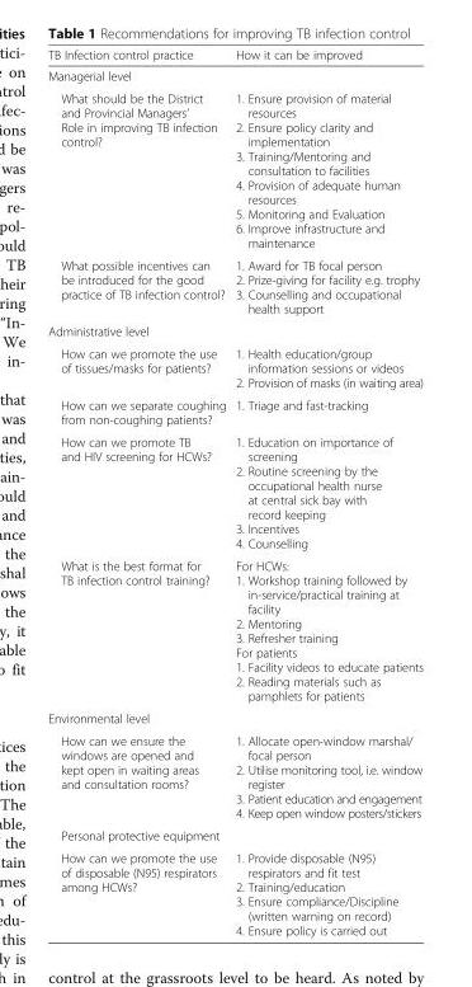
<table><thead><tr><td>TB Infection control practice</td><td>How it can be improved</td></tr></thead><tbody><tr><td colspan="2">Managerial level</td></tr><tr><td>What should be the District and Provincial Managers’ Role in improving TB infection control?</td><td>1. Ensure provision of material resources 2. Ensure policy clarity and implementation 3. Training/Mentoring and consultation to facilities 4. Provision of adequate human resources 5. Monitoring and Evaluation 6. Improve infrastructure and maintenance</td></tr><tr><td>What possible incentives can be introduced for the good practice of TB infection control?</td><td>1. Award for TB focal person 2. Prize-giving for facility e.g. trophy 3. Counselling and occupational health support</td></tr><tr><td colspan="2">Administrative level</td></tr><tr><td>How can we promote the use of tissues/masks for patients?</td><td>1. Health education/group information sessions or videos 2. Provision of masks (in waiting area)</td></tr><tr><td>How can we separate coughing from non-coughing patients?</td><td>1. Triage and fast-tracking</td></tr><tr><td>How can we promote TB and HIV screening for HCWs?</td><td>1. Education on importance of screening 2. Routine screening by the occupational health nurse at central sick bay with record keeping 3. Incentives 4. Counselling</td></tr><tr><td>What is the best format for TB infection control training?</td><td>For HCWs: 1. Workshop training followed by in-service/practical training at facility 2. Mentoring 3. Refresher training For patients 1. Facility videos to educate patients 2. Reading materials such as pamphlets for patients</td></tr><tr><td colspan="2">Environmental level</td></tr><tr><td>How can we ensure the windows are opened and kept open in waiting areas and consultation rooms?</td><td>1. Allocate open-window marshal/ focal person 2. Utilise monitoring tool, i.e. window register 3. Patient education and engagement 4. Keep open window posters/stickers</td></tr><tr><td colspan="2">Personal protective equipment</td></tr><tr><td>How can we promote the use of disposable (N95) respirators among HCWs?</td><td>1. Provide disposable (N95) respirators and fit test 2. Training/education 3. Ensure compliance/Discipline (written warning on record) 4. Ensure policy is carried out</td></tr></tbody></table>